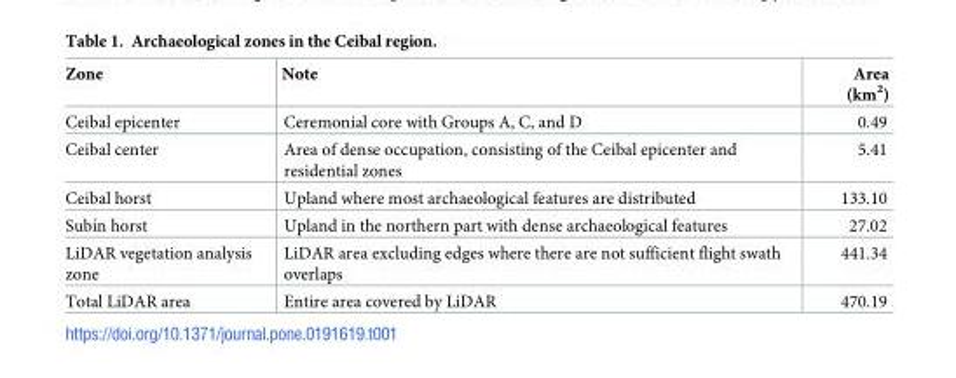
<table><thead><tr><td>Zone</td><td>Note</td><td>Area (km<sup>2</sup>)</td></tr></thead><tbody><tr><td>Ceibal epicenter</td><td>Ceremonial core with Groups A, C, and D</td><td>0.49</td></tr><tr><td>Ceibal center</td><td>Area of dense occupation, consisting of the Ceibal epicenter and residential zones</td><td>5.41</td></tr><tr><td>Ceibal horst</td><td>Upland where most archaeological features are distributed</td><td>133.10</td></tr><tr><td>Subı´n horst</td><td>Upland in the northern part with dense archaeological features</td><td>27.02</td></tr><tr><td>LiDAR vegetation analysis zone</td><td>LiDAR area excluding edges where there are not sufficient flight swath overlaps</td><td>441.34</td></tr><tr><td>Total LiDAR area</td><td>Entire area covered by LiDAR</td><td>470.19</td></tr></tbody></table>